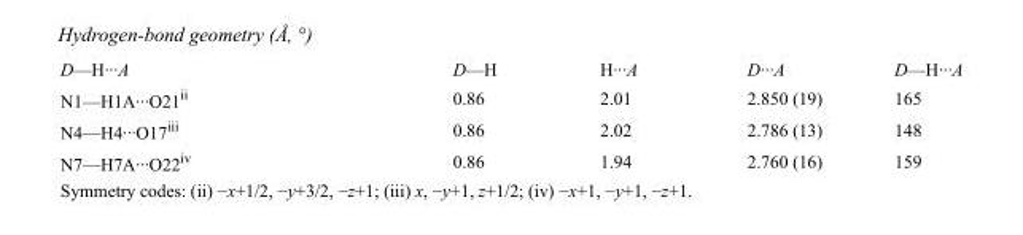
<table><tbody><tr><td>D—H···A</td><td>D—H</td><td>H···A</td><td>D···A</td><td>D—H···A</td></tr><tr><td>N1—H1A···O21<sup>ii</sup></td><td>0.86</td><td>2.01</td><td>2.850 (19)</td><td>165</td></tr><tr><td>N4—H4···O17<sup>iii</sup></td><td>0.86</td><td>2.02</td><td>2.786 (13)</td><td>148</td></tr><tr><td>N7—H7A···O22<sup>iv</sup></td><td>0.86</td><td>1.94</td><td>2.760 (16)</td><td>159</td></tr></tbody></table>